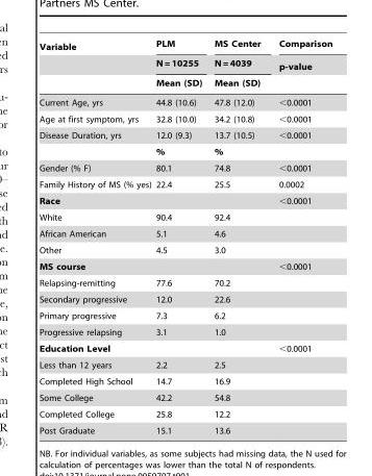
<table><thead><tr><td rowspan="3">Variable</td><td rowspan="3">PLM N = 10255 Mean (SD)</td><td rowspan="3">MS Center N = 4039 Mean (SD)</td><td rowspan="3">Comparison p-value</td></tr><tr></tr><tr></tr></thead><tbody><tr><td>Current Age, yrs</td><td>44.8 (10.6)</td><td>47.8 (12.0)</td><td>&lt;0.0001</td></tr><tr><td>Age at first symptom, yrs</td><td>32.8 (10.0)</td><td>34.2 (10.8)</td><td>&lt;0.0001</td></tr><tr><td rowspan="2">Disease Duration, yrs</td><td>12.0 (9.3)</td><td>13.7 (10.5)</td><td>&lt;0.0001</td></tr><tr><td>%</td><td>%</td><td></td></tr><tr><td>Gender (% F)</td><td>80.1</td><td>74.8</td><td>&lt;0.0001</td></tr><tr><td>Family History of MS (% yes)</td><td>22.4</td><td>25.5</td><td>0.0002</td></tr><tr><td>Race</td><td></td><td></td><td>&lt;0.0001</td></tr><tr><td>White</td><td>90.4</td><td>92.4</td><td></td></tr><tr><td>African American</td><td>5.1</td><td>4.6</td><td></td></tr><tr><td>Other</td><td>4.5</td><td>3.0</td><td></td></tr><tr><td>MS course</td><td></td><td></td><td>&lt;0.0001</td></tr><tr><td>Relapsing-remitting</td><td>77.6</td><td>70.2</td><td></td></tr><tr><td>Secondary progressive</td><td>12.0</td><td>22.6</td><td></td></tr><tr><td>Primary progressive</td><td>7.3</td><td>6.2</td><td></td></tr><tr><td>Progressive relapsing</td><td>3.1</td><td>1.0</td><td></td></tr><tr><td>Education Level</td><td></td><td></td><td>&lt;0.0001</td></tr><tr><td>Less than 12 years</td><td>2.2</td><td>2.5</td><td></td></tr><tr><td>Completed High School</td><td>14.7</td><td>16.9</td><td></td></tr><tr><td>Some College</td><td>42.2</td><td>54.8</td><td></td></tr><tr><td>Completed College</td><td>25.8</td><td>12.2</td><td></td></tr><tr><td>Post Graduate</td><td>15.1</td><td>13.6</td><td></td></tr></tbody></table>